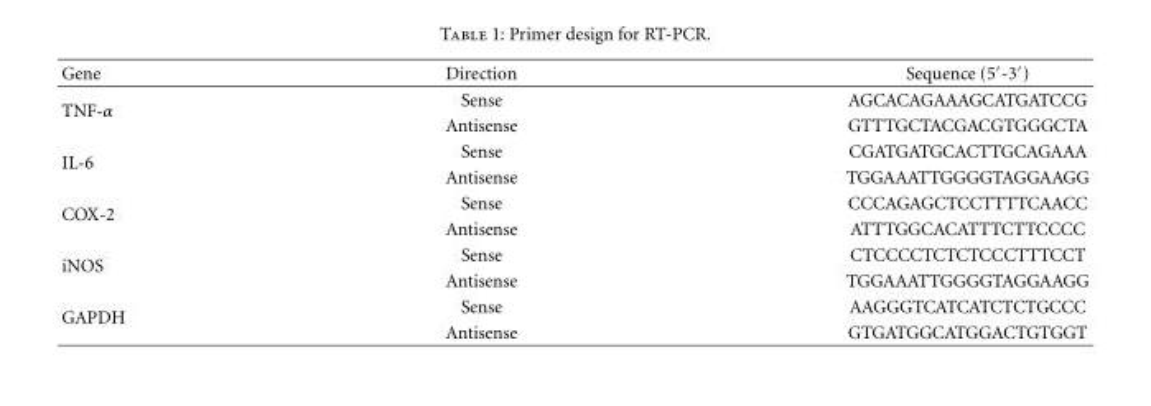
<table><thead><tr><td>Gene</td><td>Direction</td><td>Sequence (5′-3′)</td></tr></thead><tbody><tr><td rowspan="2">TNF-α</td><td>Sense</td><td>AGCACAGAAAGCATGATCCG</td></tr><tr><td>Antisense</td><td>GTTTGCTACGACGTGGGCTA</td></tr><tr><td rowspan="2">IL-6</td><td>Sense</td><td>CGATGATGCACTTGCAGAAA</td></tr><tr><td>Antisense</td><td>TGGAAATTGGGGTAGGAAGG</td></tr><tr><td rowspan="2">COX-2</td><td>Sense</td><td>CCCAGAGCTCCTTTTCAACC</td></tr><tr><td>Antisense</td><td>ATTTGGCACATTTCTTCCCC</td></tr><tr><td rowspan="2">iNOS</td><td>Sense</td><td>CTCCCCTCTCTCCCTTTCCT</td></tr><tr><td>Antisense</td><td>TGGAAATTGGGGTAGGAAGG</td></tr><tr><td rowspan="2">GAPDH</td><td>Sense</td><td>AAGGGTCATCATCTCTGCCC</td></tr><tr><td>Antisense</td><td>GTGATGGCATGGACTGTGGT</td></tr></tbody></table>